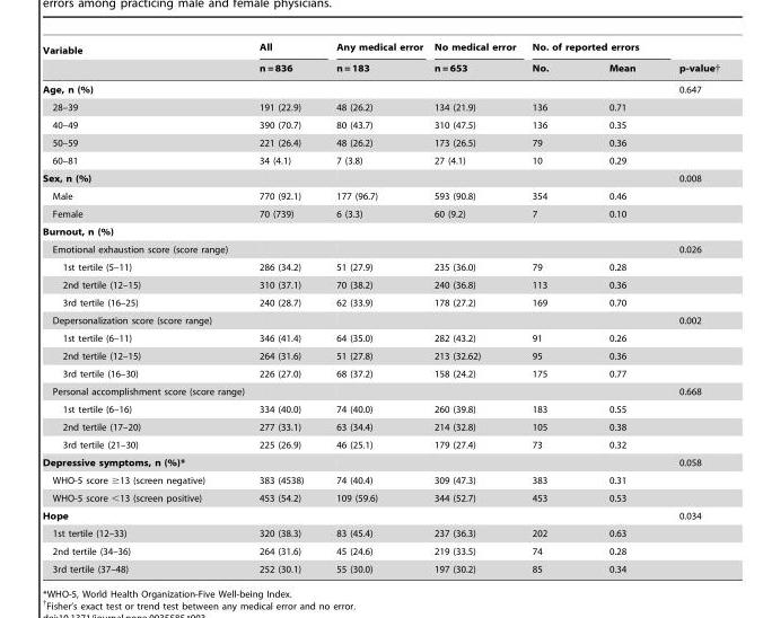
<table><thead><tr><td rowspan="2">Variable</td><td rowspan="2">All n = 836</td><td rowspan="2">Any medical error n = 183</td><td rowspan="2">No medical error n = 653</td><td colspan="2">No. of reported errors</td><td rowspan="2">p-value†</td></tr><tr><td>No.</td><td>Mean</td></tr></thead><tbody><tr><td>Age, n (%)</td><td></td><td></td><td></td><td></td><td></td><td>0.647</td></tr><tr><td>28–39</td><td>191 (22.9)</td><td>48 (26.2)</td><td>134 (21.9)</td><td>136</td><td>0.71</td><td></td></tr><tr><td>40–49</td><td>390 (70.7)</td><td>80 (43.7)</td><td>310 (47.5)</td><td>136</td><td>0.35</td><td></td></tr><tr><td>50–59</td><td>221 (26.4)</td><td>48 (26.2)</td><td>173 (26.5)</td><td>79</td><td>0.36</td><td></td></tr><tr><td>60–81</td><td>34 (4.1)</td><td>7 (3.8)</td><td>27 (4.1)</td><td>10</td><td>0.29</td><td></td></tr><tr><td>Sex, n (%)</td><td></td><td></td><td></td><td></td><td></td><td>0.008</td></tr><tr><td>Male</td><td>770 (92.1)</td><td>177 (96.7)</td><td>593 (90.8)</td><td>354</td><td>0.46</td><td></td></tr><tr><td>Female</td><td>70 (739)</td><td>6 (3.3)</td><td>60 (9.2)</td><td>7</td><td>0.10</td><td></td></tr><tr><td colspan="7">Burnout, n (%)</td></tr><tr><td>Emotional exhaustion score (score range)</td><td></td><td></td><td></td><td></td><td></td><td>0.026</td></tr><tr><td>1st tertile (5–11)</td><td>286 (34.2)</td><td>51 (27.9)</td><td>235 (36.0)</td><td>79</td><td>0.28</td><td></td></tr><tr><td>2nd tertile (12–15)</td><td>310 (37.1)</td><td>70 (38.2)</td><td>240 (36.8)</td><td>113</td><td>0.36</td><td></td></tr><tr><td>3rd tertile (16–25)</td><td>240 (28.7)</td><td>62 (33.9)</td><td>178 (27.2)</td><td>169</td><td>0.70</td><td></td></tr><tr><td>Depersonalization score (score range)</td><td></td><td></td><td></td><td></td><td></td><td>0.002</td></tr><tr><td>1st tertile (6–11)</td><td>346 (41.4)</td><td>64 (35.0)</td><td>282 (43.2)</td><td>91</td><td>0.26</td><td></td></tr><tr><td>2nd tertile (12–15)</td><td>264 (31.6)</td><td>51 (27.8)</td><td>213 (32.62)</td><td>95</td><td>0.36</td><td></td></tr><tr><td>3rd tertile (16–30)</td><td>226 (27.0)</td><td>68 (37.2)</td><td>158 (24.2)</td><td>175</td><td>0.77</td><td></td></tr><tr><td>Personal accomplishment score (score range)</td><td></td><td></td><td></td><td></td><td></td><td>0.668</td></tr><tr><td>1st tertile (6–16)</td><td>334 (40.0)</td><td>74 (40.0)</td><td>260 (39.8)</td><td>183</td><td>0.55</td><td></td></tr><tr><td>2nd tertile (17–20)</td><td>277 (33.1)</td><td>63 (34.4)</td><td>214 (32.8)</td><td>105</td><td>0.38</td><td></td></tr><tr><td>3rd tertile (21–30)</td><td>225 (26.9)</td><td>46 (25.1)</td><td>179 (27.4)</td><td>73</td><td>0.32</td><td></td></tr><tr><td>Depressive symptoms, n (%)*</td><td></td><td></td><td></td><td></td><td></td><td>0.058</td></tr><tr><td>WHO-5 score ≥13 (screen negative)</td><td>383 (4538)</td><td>74 (40.4)</td><td>309 (47.3)</td><td>383</td><td>0.31</td><td></td></tr><tr><td>WHO-5 score &lt;13 (screen positive)</td><td>453 (54.2)</td><td>109 (59.6)</td><td>344 (52.7)</td><td>453</td><td>0.53</td><td></td></tr><tr><td>Hope</td><td></td><td></td><td></td><td></td><td></td><td>0.034</td></tr><tr><td>1st tertile (12–33)</td><td>320 (38.3)</td><td>83 (45.4)</td><td>237 (36.3)</td><td>202</td><td>0.63</td><td></td></tr><tr><td>2nd tertile (34–36)</td><td>264 (31.6)</td><td>45 (24.6)</td><td>219 (33.5)</td><td>74</td><td>0.28</td><td></td></tr><tr><td>3rd tertile (37–48)</td><td>252 (30.1)</td><td>55 (30.0)</td><td>197 (30.2)</td><td>85</td><td>0.34</td><td></td></tr></tbody></table>